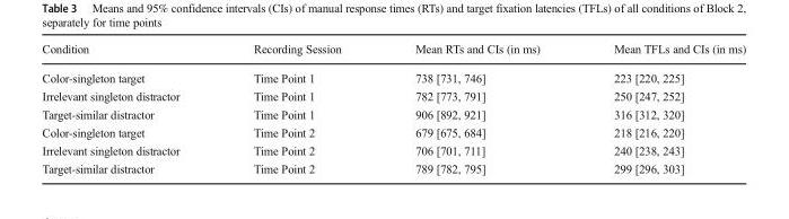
<table><thead><tr><td>Condition</td><td>Recording Session</td><td>Mean RTs and CIs (in ms)</td><td>Mean TFLs and CIs (in ms)</td></tr></thead><tbody><tr><td>Color-singleton target</td><td>Time Point 1</td><td>738 [731, 746]</td><td>223 [220, 225]</td></tr><tr><td>Irrelevant singleton distractor</td><td>Time Point 1</td><td>782 [773, 791]</td><td>250 [247, 252]</td></tr><tr><td>Target-similar distractor</td><td>Time Point 1</td><td>906 [892, 921]</td><td>316 [312, 320]</td></tr><tr><td>Color-singleton target</td><td>Time Point 2</td><td>679 [675, 684]</td><td>218 [216, 220]</td></tr><tr><td>Irrelevant singleton distractor</td><td>Time Point 2</td><td>706 [701, 711]</td><td>240 [238, 243]</td></tr><tr><td>Target-similar distractor</td><td>Time Point 2</td><td>789 [782, 795]</td><td>299 [296, 303]</td></tr></tbody></table>